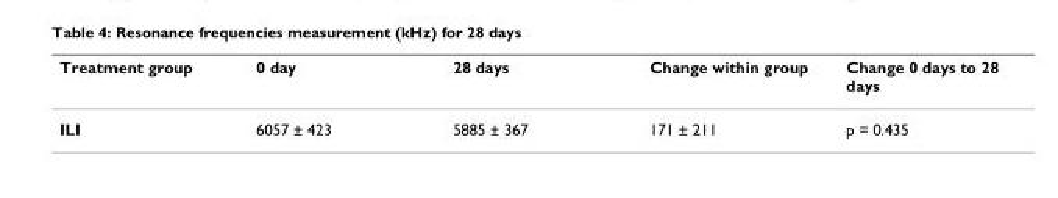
<table><thead><tr><td>Treatment group</td><td>0 day</td><td>28 days</td><td>Change within group</td><td>Change 0 days to 28 days</td></tr></thead><tbody><tr><td>ILI</td><td>6057 ± 423</td><td>5885 ± 367</td><td>171 ± 211</td><td>p = 0.435</td></tr></tbody></table>